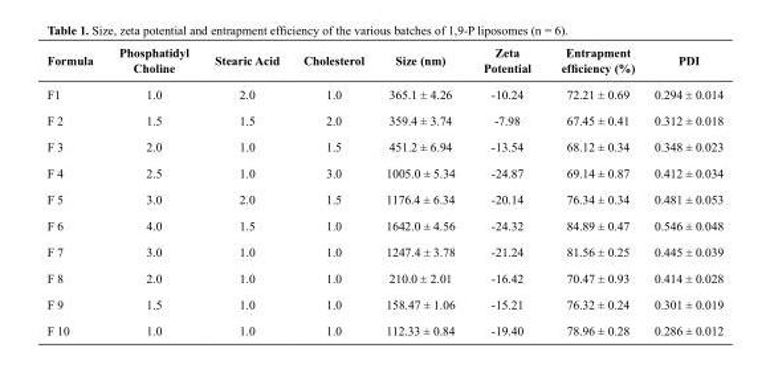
<table><thead><tr><td>Formula</td><td>Phosphatidyl Choline</td><td>Stearic Acid</td><td>Cholesterol</td><td>Size (nm)</td><td>Zeta Potential</td><td>Entrapment efficiency (%)</td><td>PDI</td></tr></thead><tbody><tr><td>F1</td><td>1.0</td><td>2.0</td><td>1.0</td><td>365.1 ± 4.26</td><td>-10.24</td><td>72.21 ± 0.69</td><td>0.294 ± 0.014</td></tr><tr><td>F 2</td><td>1.5</td><td>1.5</td><td>2.0</td><td>359.4 ± 3.74</td><td>-7.98</td><td>67.45 ± 0.41</td><td>0.312 ± 0.018</td></tr><tr><td>F 3</td><td>2.0</td><td>1.0</td><td>1.5</td><td>451.2 ± 6.94</td><td>-13.54</td><td>68.12 ± 0.34</td><td>0.348 ± 0.023</td></tr><tr><td>F 4</td><td>2.5</td><td>1.0</td><td>3.0</td><td>1005.0 ± 5.34</td><td>-24.87</td><td>69.14 ± 0.87</td><td>0.412 ± 0.034</td></tr><tr><td>F 5</td><td>3.0</td><td>2.0</td><td>1.5</td><td>1176.4 ± 6.34</td><td>-20.14</td><td>76.34 ± 0.34</td><td>0.481 ± 0.053</td></tr><tr><td>F 6</td><td>4.0</td><td>1.5</td><td>1.0</td><td>1642.0 ± 4.56</td><td>-24.32</td><td>84.89 ± 0.47</td><td>0.546 ± 0.048</td></tr><tr><td>F 7</td><td>3.0</td><td>1.0</td><td>1.0</td><td>1247.4 ± 3.78</td><td>-21.24</td><td>81.56 ± 0.25</td><td>0.445 ± 0.039</td></tr><tr><td>F 8</td><td>2.0</td><td>1.0</td><td>1.0</td><td>210.0 ± 2.01</td><td>-16.42</td><td>70.47 ± 0.93</td><td>0.414 ± 0.028</td></tr><tr><td>F 9</td><td>1.5</td><td>1.0</td><td>1.0</td><td>158.47 ± 1.06</td><td>-15.21</td><td>76.32 ± 0.24</td><td>0.301 ± 0.019</td></tr><tr><td>F 10</td><td>1.0</td><td>1.0</td><td>1.0</td><td>112.33 ± 0.84</td><td>-19.40</td><td>78.96 ± 0.28</td><td>0.286 ± 0.012</td></tr></tbody></table>